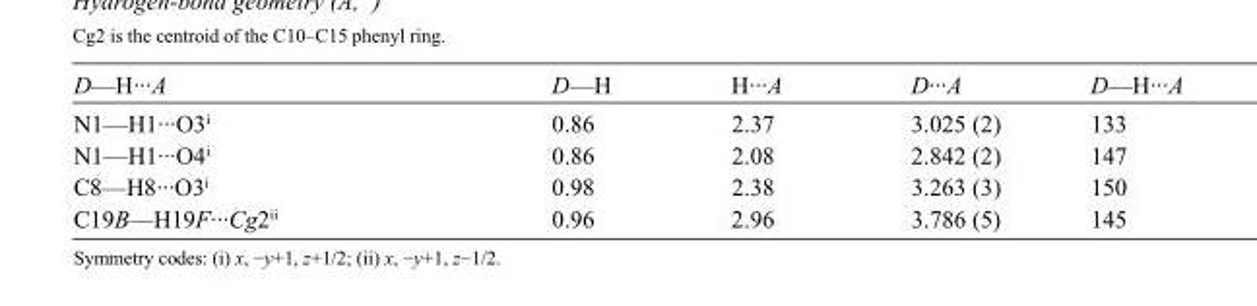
<table><tbody><tr><td>D—H···A</td><td>D—H</td><td>H···A</td><td>D···A</td><td>D—H···A</td></tr><tr><td>N1—H1···O3<sup>i</sup></td><td>0.86</td><td>2.37</td><td>3.025 (2)</td><td>133</td></tr><tr><td>N1—H1···O4<sup>i</sup></td><td>0.86</td><td>2.08</td><td>2.842 (2)</td><td>147</td></tr><tr><td>C8—H8···O3<sup>i</sup></td><td>0.98</td><td>2.38</td><td>3.263 (3)</td><td>150</td></tr><tr><td>C19B—H19F···Cg2<sup>ii</sup></td><td>0.96</td><td>2.96</td><td>3.786 (5)</td><td>145</td></tr></tbody></table>